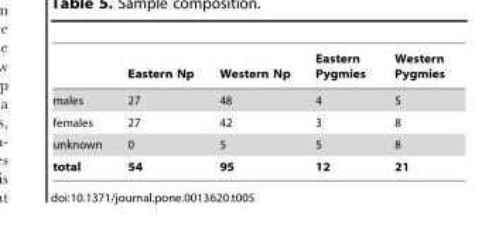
<table><thead><tr><td></td><td>Eastern Np</td><td>Western Np</td><td>Eastern Pygmies</td><td>Western Pygmies</td></tr></thead><tbody><tr><td>males</td><td>27</td><td>48</td><td>4</td><td>5</td></tr><tr><td>females</td><td>27</td><td>42</td><td>3</td><td>8</td></tr><tr><td>unknown</td><td>0</td><td>5</td><td>5</td><td>8</td></tr><tr><td>total</td><td>54</td><td>95</td><td>12</td><td>21</td></tr></tbody></table>